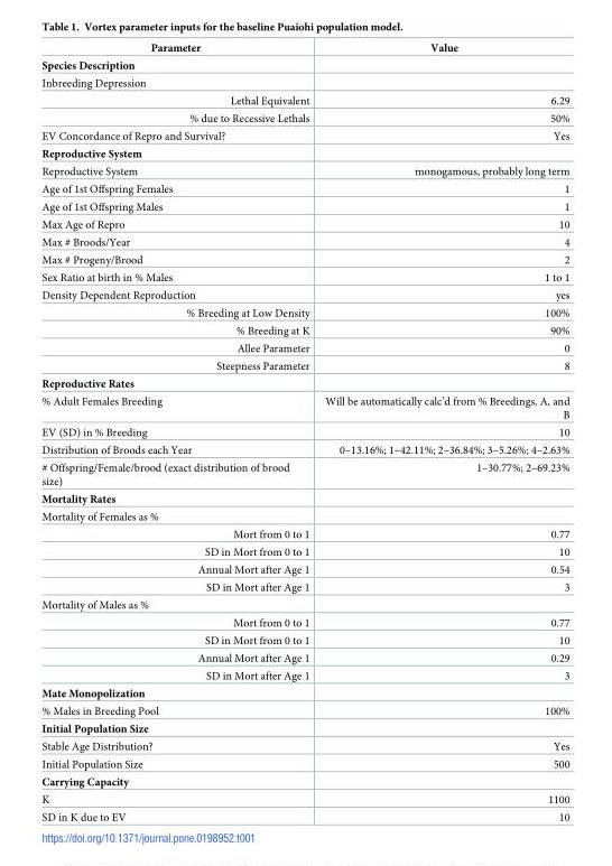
<table><thead><tr><td>Parameter</td><td>Value</td></tr></thead><tbody><tr><td colspan="2">Species Description</td></tr><tr><td colspan="2">Inbreeding Depression</td></tr><tr><td>Lethal Equivalent</td><td>6.29</td></tr><tr><td>% due to Recessive Lethals</td><td>50%</td></tr><tr><td>EV Concordance of Repro and Survival?</td><td>Yes</td></tr><tr><td colspan="2">Reproductive System</td></tr><tr><td>Reproductive System</td><td>monogamous, probably long term</td></tr><tr><td>Age of 1st Offspring Females</td><td>1</td></tr><tr><td>Age of 1st Offspring Males</td><td>1</td></tr><tr><td>Max Age of Repro</td><td>10</td></tr><tr><td>Max # Broods/Year</td><td>4</td></tr><tr><td>Max # Progeny/Brood</td><td>2</td></tr><tr><td>Sex Ratio at birth in % Males</td><td>1 to 1</td></tr><tr><td>Density Dependent Reproduction</td><td>yes</td></tr><tr><td>% Breeding at Low Density</td><td>100%</td></tr><tr><td>% Breeding at K</td><td>90%</td></tr><tr><td>Allee Parameter</td><td>0</td></tr><tr><td>Steepness Parameter</td><td>8</td></tr><tr><td colspan="2">Reproductive Rates</td></tr><tr><td>% Adult Females Breeding</td><td>Will be automatically calc’d from % Breedings, A, and B</td></tr><tr><td>EV (SD) in % Breeding</td><td>10</td></tr><tr><td>Distribution of Broods each Year</td><td>0–13.16%; 1–42.11%; 2–36.84%; 3–5.26%; 4–2.63%</td></tr><tr><td># Offspring/Female/brood (exact distribution of brood size)</td><td>1–30.77%; 2–69.23%</td></tr><tr><td colspan="2">Mortality Rates</td></tr><tr><td colspan="2">Mortality of Females as %</td></tr><tr><td>Mort from 0 to 1</td><td>0.77</td></tr><tr><td>SD in Mort from 0 to 1</td><td>10</td></tr><tr><td>Annual Mort after Age 1</td><td>0.54</td></tr><tr><td>SD in Mort after Age 1</td><td>3</td></tr><tr><td colspan="2">Mortality of Males as %</td></tr><tr><td>Mort from 0 to 1</td><td>0.77</td></tr><tr><td>SD in Mort from 0 to 1</td><td>10</td></tr><tr><td>Annual Mort after Age 1</td><td>0.29</td></tr><tr><td>SD in Mort after Age 1</td><td>3</td></tr><tr><td colspan="2">Mate Monopolization</td></tr><tr><td>% Males in Breeding Pool</td><td>100%</td></tr><tr><td colspan="2">Initial Population Size</td></tr><tr><td>Stable Age Distribution?</td><td>Yes</td></tr><tr><td>Initial Population Size</td><td>500</td></tr><tr><td colspan="2">Carrying Capacity</td></tr><tr><td>K</td><td>1100</td></tr><tr><td>SD in K due to EV</td><td>10</td></tr></tbody></table>